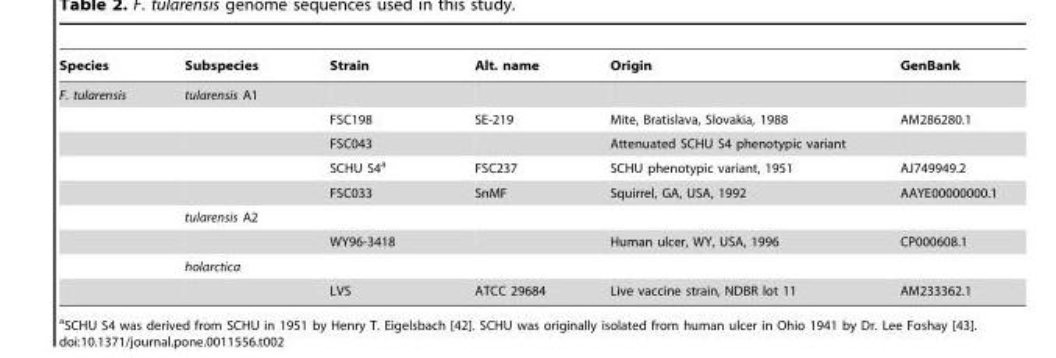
<table><thead><tr><td>Species</td><td>Subspecies</td><td>Strain</td><td>Alt. name</td><td>Origin</td><td>GenBank</td></tr></thead><tbody><tr><td rowspan="9">F. tularensis</td><td>tularensis A1</td><td></td><td></td><td></td><td></td></tr><tr><td></td><td>FSC198</td><td>SE-219</td><td>Mite, Bratislava, Slovakia, 1988</td><td>AM286280.1</td></tr><tr><td></td><td>FSC043</td><td></td><td>Attenuated SCHU S4 phenotypic variant</td><td></td></tr><tr><td></td><td>SCHU S4<sup>a</sup></td><td>FSC237</td><td>SCHU phenotypic variant, 1951</td><td>AJ749949.2</td></tr><tr><td></td><td>FSC033</td><td>SnMF</td><td>Squirrel, GA, USA, 1992</td><td>AAYE00000000.1</td></tr><tr><td>tularensis A2</td><td></td><td></td><td></td><td></td></tr><tr><td></td><td>WY96-3418</td><td></td><td>Human ulcer, WY, USA, 1996</td><td>CP000608.1</td></tr><tr><td>holarctica</td><td></td><td></td><td></td><td></td></tr><tr><td></td><td>LVS</td><td>ATCC 29684</td><td>Live vaccine strain, NDBR lot 11</td><td>AM233362.1</td></tr></tbody></table>